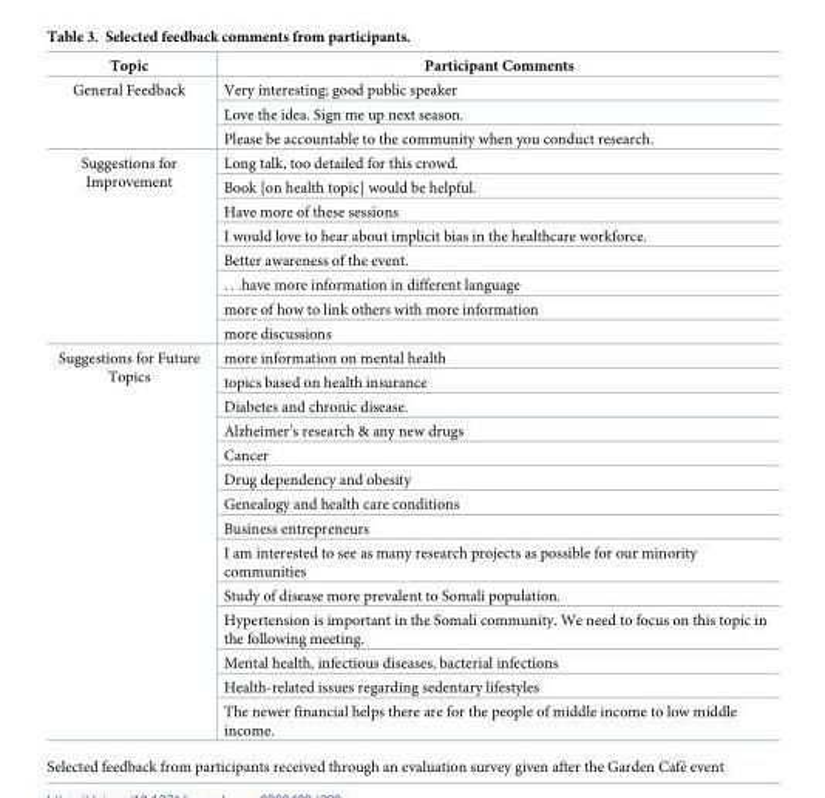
<table><thead><tr><td>Topic</td><td>Participant Comments</td></tr></thead><tbody><tr><td rowspan="3">General Feedback</td><td>Very interesting; good public speaker</td></tr><tr><td>Love the idea. Sign me up next season.</td></tr><tr><td>Please be accountable to the community when you conduct research.</td></tr><tr><td rowspan="8">Suggestions for Improvement</td><td>Long talk, too detailed for this crowd.</td></tr><tr><td>Book [on health topic] would be helpful.</td></tr><tr><td>Have more of these sessions</td></tr><tr><td>I would love to hear about implicit bias in the healthcare workforce.</td></tr><tr><td>Better awareness of the event.</td></tr><tr><td>. . .have more information in different language</td></tr><tr><td>more of how to link others with more information</td></tr><tr><td>more discussions</td></tr><tr><td rowspan="14">Suggestions for Future Topics</td><td>more information on mental health</td></tr><tr><td>topics based on health insurance</td></tr><tr><td>Diabetes and chronic disease.</td></tr><tr><td>Alzheimer’s research &amp; any new drugs</td></tr><tr><td>Cancer</td></tr><tr><td>Drug dependency and obesity</td></tr><tr><td>Genealogy and health care conditions</td></tr><tr><td>Business entrepreneurs</td></tr><tr><td>I am interested to see as many research projects as possible for our minority communities</td></tr><tr><td>Study of disease more prevalent to Somali population.</td></tr><tr><td>Hypertension is important in the Somali community. We need to focus on this topic in the following meeting.</td></tr><tr><td>Mental health, infectious diseases, bacterial infections</td></tr><tr><td>Health-related issues regarding sedentary lifestyles</td></tr><tr><td>The newer financial helps there are for the people of middle income to low middle income.</td></tr></tbody></table>